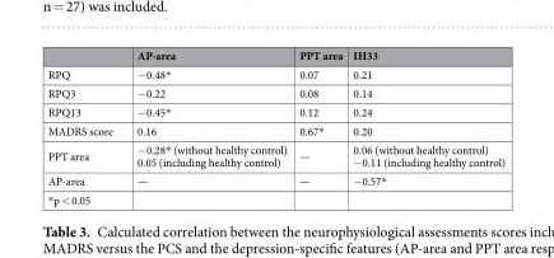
<table><thead><tr><td></td><td>AP-area</td><td>PPT area</td><td>IH33</td></tr></thead><tbody><tr><td>RPQ</td><td>−0.48*</td><td>0.07</td><td>0.21</td></tr><tr><td>RPQ3</td><td>−0.22</td><td>0.08</td><td>0.14</td></tr><tr><td>RPQ13</td><td>−0.45*</td><td>0.12</td><td>0.24</td></tr><tr><td>MADRS score</td><td>0.16</td><td>0.67*</td><td>0.20</td></tr><tr><td>PPT area</td><td>−0.28* (without healthy control) 0.05 (including healthy control)</td><td>—</td><td>0.06 (without healthy control) −0.11 (including healthy control)</td></tr><tr><td>AP-area</td><td>—</td><td>—</td><td>−0.57*</td></tr><tr><td>*p &lt; 0.05</td><td></td><td></td><td></td></tr></tbody></table>